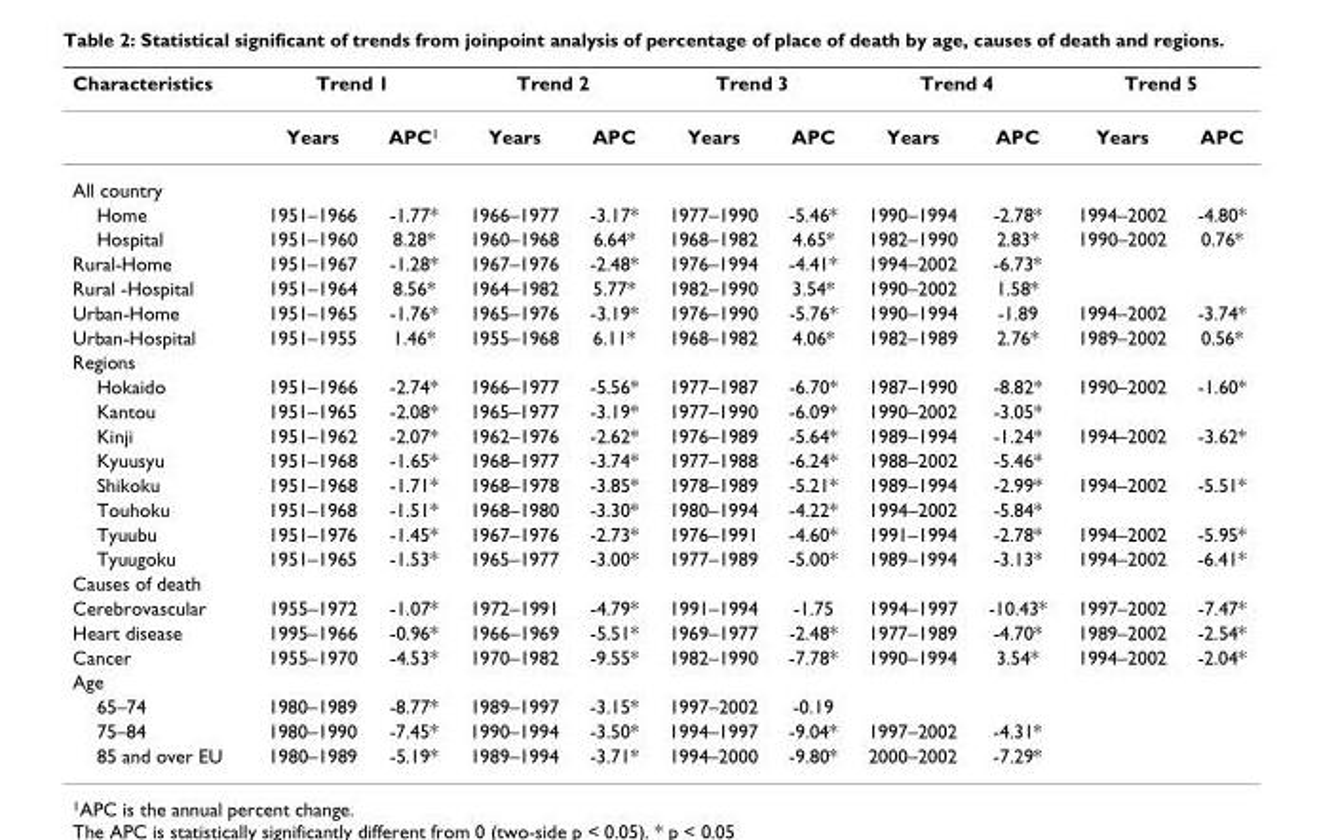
<table><thead><tr><td rowspan="2">Characteristics</td><td colspan="2">Trend 1</td><td colspan="2">Trend 2</td><td colspan="2">Trend 3</td><td colspan="2">Trend 4</td><td colspan="2">Trend 5</td></tr><tr><td>Years</td><td>APC<sup>1</sup></td><td>Years</td><td>APC</td><td>Years</td><td>APC</td><td>Years</td><td>APC</td><td>Years</td><td>APC</td></tr></thead><tbody><tr><td colspan="11">All country</td></tr><tr><td>Home</td><td>1951–1966</td><td>-1.77*</td><td>1966–1977</td><td>-3.17*</td><td>1977–1990</td><td>-5.46*</td><td>1990–1994</td><td>-2.78*</td><td>1994–2002</td><td>-4.80*</td></tr><tr><td>Hospital</td><td>1951–1960</td><td>8.28*</td><td>1960–1968</td><td>6.64*</td><td>1968–1982</td><td>4.65*</td><td>1982–1990</td><td>2.83*</td><td>1990–2002</td><td>0.76*</td></tr><tr><td>Rural-Home</td><td>1951–1967</td><td>-1.28*</td><td>1967–1976</td><td>-2.48*</td><td>1976–1994</td><td>-4.41*</td><td>1994–2002</td><td>-6.73*</td><td></td><td></td></tr><tr><td>Rural -Hospital</td><td>1951–1964</td><td>8.56*</td><td>1964–1982</td><td>5.77*</td><td>1982–1990</td><td>3.54*</td><td>1990–2002</td><td>1.58*</td><td></td><td></td></tr><tr><td>Urban-Home</td><td>1951–1965</td><td>-1.76*</td><td>1965–1976</td><td>-3.19*</td><td>1976–1990</td><td>-5.76*</td><td>1990–1994</td><td>-1.89</td><td>1994–2002</td><td>-3.74*</td></tr><tr><td>Urban-Hospital</td><td>1951–1955</td><td>1.46*</td><td>1955–1968</td><td>6.11*</td><td>1968–1982</td><td>4.06*</td><td>1982–1989</td><td>2.76*</td><td>1989–2002</td><td>0.56*</td></tr><tr><td colspan="11">Regions</td></tr><tr><td>Hokaido</td><td>1951–1966</td><td>-2.74*</td><td>1966–1977</td><td>-5.56*</td><td>1977–1987</td><td>-6.70*</td><td>1987–1990</td><td>-8.82*</td><td>1990–2002</td><td>-1.60*</td></tr><tr><td>Kantou</td><td>1951–1965</td><td>-2.08*</td><td>1965–1977</td><td>-3.19*</td><td>1977–1990</td><td>-6.09*</td><td>1990–2002</td><td>-3.05*</td><td></td><td></td></tr><tr><td>Kinji</td><td>1951–1962</td><td>-2.07*</td><td>1962–1976</td><td>-2.62*</td><td>1976–1989</td><td>-5.64*</td><td>1989–1994</td><td>-1.24*</td><td>1994–2002</td><td>-3.62*</td></tr><tr><td>Kyuusyu</td><td>1951–1968</td><td>-1.65*</td><td>1968–1977</td><td>-3.74*</td><td>1977–1988</td><td>-6.24*</td><td>1988–2002</td><td>-5.46*</td><td></td><td></td></tr><tr><td>Shikoku</td><td>1951–1968</td><td>-1.71*</td><td>1968–1978</td><td>-3.85*</td><td>1978–1989</td><td>-5.21*</td><td>1989–1994</td><td>-2.99*</td><td>1994–2002</td><td>-5.51*</td></tr><tr><td>Touhoku</td><td>1951–1968</td><td>-1.51*</td><td>1968–1980</td><td>-3.30*</td><td>1980–1994</td><td>-4.22*</td><td>1994–2002</td><td>-5.84*</td><td></td><td></td></tr><tr><td>Tyuubu</td><td>1951–1976</td><td>-1.45*</td><td>1967–1976</td><td>-2.73*</td><td>1976–1991</td><td>-4.60*</td><td>1991–1994</td><td>-2.78*</td><td>1994–2002</td><td>-5.95*</td></tr><tr><td>Tyuugoku</td><td>1951–1965</td><td>-1.53*</td><td>1965–1977</td><td>-3.00*</td><td>1977–1989</td><td>-5.00*</td><td>1989–1994</td><td>-3.13*</td><td>1994–2002</td><td>-6.41*</td></tr><tr><td colspan="11">Causes of death</td></tr><tr><td>Cerebrovascular</td><td>1955–1972</td><td>-1.07*</td><td>1972–1991</td><td>-4.79*</td><td>1991–1994</td><td>-1.75</td><td>1994–1997</td><td>-10.43*</td><td>1997–2002</td><td>-7.47*</td></tr><tr><td>Heart disease</td><td>1995–1966</td><td>-0.96*</td><td>1966–1969</td><td>-5.51*</td><td>1969–1977</td><td>-2.48*</td><td>1977–1989</td><td>-4.70*</td><td>1989–2002</td><td>-2.54*</td></tr><tr><td>Cancer</td><td>1955–1970</td><td>-4.53*</td><td>1970–1982</td><td>-9.55*</td><td>1982–1990</td><td>-7.78*</td><td>1990–1994</td><td>3.54*</td><td>1994–2002</td><td>-2.04*</td></tr><tr><td colspan="11">Age</td></tr><tr><td>65–74</td><td>1980–1989</td><td>-8.77*</td><td>1989–1997</td><td>-3.15*</td><td>1997–2002</td><td>-0.19</td><td></td><td></td><td></td><td></td></tr><tr><td>75–84</td><td>1980–1990</td><td>-7.45*</td><td>1990–1994</td><td>-3.50*</td><td>1994–1997</td><td>-9.04*</td><td>1997–2002</td><td>-4.31*</td><td></td><td></td></tr><tr><td>85 and over EU</td><td>1980–1989</td><td>-5.19*</td><td>1989–1994</td><td>-3.71*</td><td>1994–2000</td><td>-9.80*</td><td>2000–2002</td><td>-7.29*</td><td></td><td></td></tr></tbody></table>